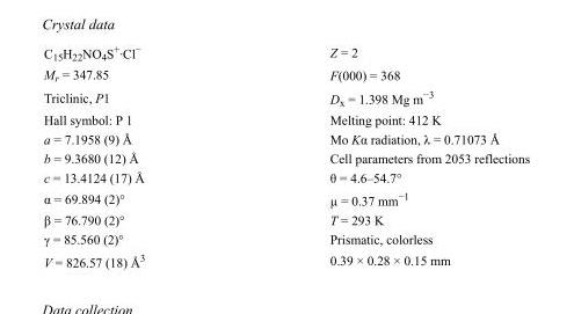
<table><tbody><tr><td>C<sub>15</sub>H<sub>22</sub>NO<sub>4</sub>S<sup>+</sup>·Cl<sup>−</sup></td><td>Z = 2</td></tr><tr><td>M<sub>r</sub> = 347.85</td><td>F(000) = 368</td></tr><tr><td>Triclinic, P1</td><td>D<sub>x</sub> = 1.398 Mg m<sup>−3</sup></td></tr><tr><td>Hall symbol: P 1</td><td>Melting point: 412 K</td></tr><tr><td>a = 7.1958 (9) Å</td><td>Mo Kα radiation, λ = 0.71073 Å</td></tr><tr><td>b = 9.3680 (12) Å</td><td>Cell parameters from 2053 reflections</td></tr><tr><td>c = 13.4124 (17) Å</td><td>θ = 4.6–54.7°</td></tr><tr><td>α = 69.894 (2)°</td><td>µ = 0.37 mm<sup>−1</sup></td></tr><tr><td>β = 76.790 (2)°</td><td>T = 293 K</td></tr><tr><td>γ = 85.560 (2)°</td><td>Prismatic, colorless</td></tr><tr><td>V = 826.57 (18) Å<sup>3</sup></td><td>0.39 × 0.28 × 0.15 mm</td></tr></tbody></table>